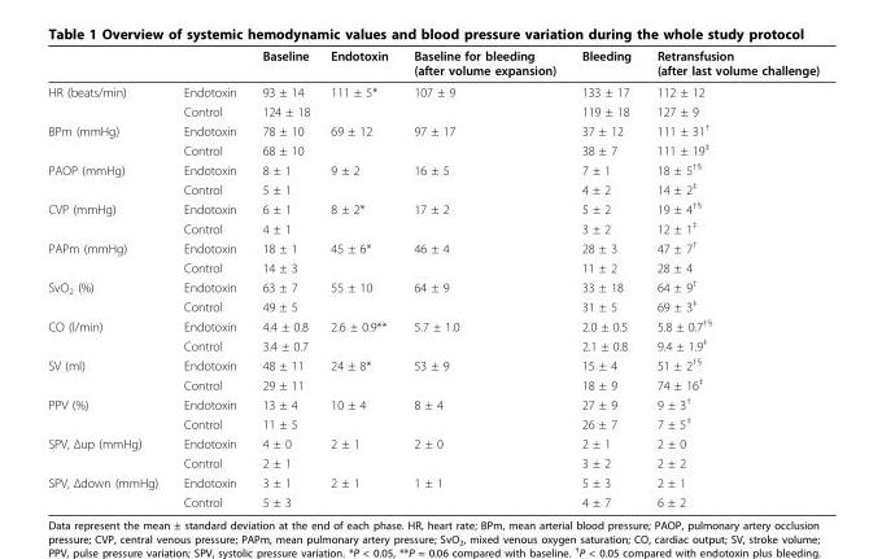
<table><thead><tr><td></td><td></td><td>Baseline</td><td>Endotoxin</td><td>Baseline for bleeding (after volume expansion)</td><td>Bleeding</td><td>Retransfusion (after last volume challenge)</td></tr></thead><tbody><tr><td rowspan="2">HR (beats/min)</td><td>Endotoxin</td><td>93 ± 14</td><td>111 ± 5*</td><td>107 ± 9</td><td>133 ± 17</td><td>112 ± 12</td></tr><tr><td>Control</td><td>124 ± 18</td><td></td><td></td><td>119 ± 18</td><td>127 ± 9</td></tr><tr><td rowspan="2">BPm (mmHg)</td><td>Endotoxin</td><td>78 ± 10</td><td>69 ± 12</td><td>97 ± 17</td><td>37 ± 12</td><td>111 ± 31<sup>†</sup></td></tr><tr><td>Control</td><td>68 ± 10</td><td></td><td></td><td>38 ± 7</td><td>111 ± 19<sup>‡</sup></td></tr><tr><td rowspan="2">PAOP (mmHg)</td><td>Endotoxin</td><td>8 ± 1</td><td>9 ± 2</td><td>16 ± 5</td><td>7 ± 1</td><td>18 ± 5<sup>†§</sup></td></tr><tr><td>Control</td><td>5 ± 1</td><td></td><td></td><td>4 ± 2</td><td>14 ± 2<sup>‡</sup></td></tr><tr><td rowspan="2">CVP (mmHg)</td><td>Endotoxin</td><td>6 ± 1</td><td>8 ± 2*</td><td>17 ± 2</td><td>5 ± 2</td><td>19 ± 4<sup>†§</sup></td></tr><tr><td>Control</td><td>4 ± 1</td><td></td><td></td><td>3 ± 2</td><td>12 ± 1<sup>‡</sup></td></tr><tr><td rowspan="2">PAPm (mmHg)</td><td>Endotoxin</td><td>18 ± 1</td><td>45 ± 6*</td><td>46 ± 4</td><td>28 ± 3</td><td>47 ± 7<sup>†</sup></td></tr><tr><td>Control</td><td>14 ± 3</td><td></td><td></td><td>11 ± 2</td><td>28 ± 4</td></tr><tr><td rowspan="2">SvO<sub>2</sub> (%)</td><td>Endotoxin</td><td>63 ± 7</td><td>55 ± 10</td><td>64 ± 9</td><td>33 ± 18</td><td>64 ± 9<sup>†</sup></td></tr><tr><td>Control</td><td>49 ± 5</td><td></td><td></td><td>31 ± 5</td><td>69 ± 3<sup>‡</sup></td></tr><tr><td rowspan="2">CO (l/min)</td><td>Endotoxin</td><td>4.4 ± 0.8</td><td>2.6 ± 0.9**</td><td>5.7 ± 1.0</td><td>2.0 ± 0.5</td><td>5.8 ± 0.7<sup>†§</sup></td></tr><tr><td>Control</td><td>3.4 ± 0.7</td><td></td><td></td><td>2.1 ± 0.8</td><td>9.4 ± 1.9<sup>‡</sup></td></tr><tr><td rowspan="2">SV (ml)</td><td>Endotoxin</td><td>48 ± 11</td><td>24 ± 8*</td><td>53 ± 9</td><td>15 ± 4</td><td>51 ± 2<sup>†§</sup></td></tr><tr><td>Control</td><td>29 ± 11</td><td></td><td></td><td>18 ± 9</td><td>74 ± 16<sup>‡</sup></td></tr><tr><td rowspan="2">PPV (%)</td><td>Endotoxin</td><td>13 ± 4</td><td>10 ± 4</td><td>8 ± 4</td><td>27 ± 9</td><td>9 ± 3<sup>†</sup></td></tr><tr><td>Control</td><td>11 ± 5</td><td></td><td></td><td>26 ± 7</td><td>7 ± 5<sup>‡</sup></td></tr><tr><td rowspan="2">SPV, Δup (mmHg)</td><td>Endotoxin</td><td>4 ± 0</td><td>2 ± 1</td><td>2 ± 0</td><td>2 ± 1</td><td>2 ± 0</td></tr><tr><td>Control</td><td>2 ± 1</td><td></td><td></td><td>3 ± 2</td><td>2 ± 2</td></tr><tr><td rowspan="2">SPV, Δdown (mmHg)</td><td>Endotoxin</td><td>3 ± 1</td><td>2 ± 1</td><td>1 ± 1</td><td>5 ± 3</td><td>2 ± 1</td></tr><tr><td>Control</td><td>5 ± 3</td><td></td><td></td><td>4 ± 7</td><td>6 ± 2</td></tr></tbody></table>